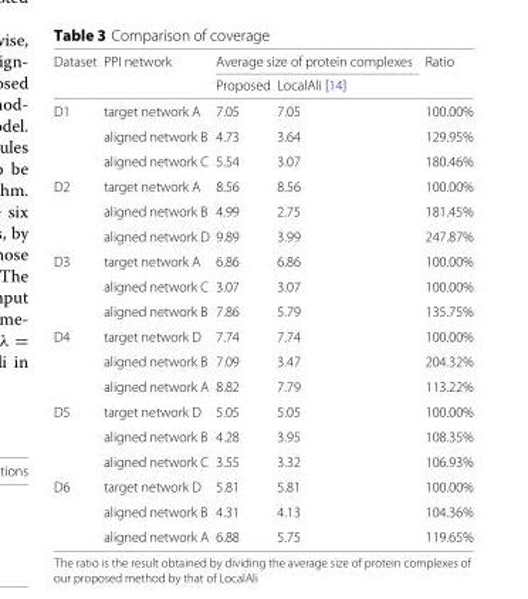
<table><thead><tr><td rowspan="2">Dataset</td><td rowspan="2">PPI network</td><td colspan="2">Average size of protein complexes</td><td rowspan="2">Ratio</td></tr><tr><td>Proposed</td><td>LocalAli [14]</td></tr></thead><tbody><tr><td rowspan="3">D1</td><td>target network A</td><td>7.05</td><td>7.05</td><td>100.00%</td></tr><tr><td>aligned network B</td><td>4.73</td><td>3.64</td><td>129.95%</td></tr><tr><td>aligned network C</td><td>5.54</td><td>3.07</td><td>180.46%</td></tr><tr><td rowspan="3">D2</td><td>target network A</td><td>8.56</td><td>8.56</td><td>100.00%</td></tr><tr><td>aligned network B</td><td>4.99</td><td>2.75</td><td>181.45%</td></tr><tr><td>aligned network D</td><td>9.89</td><td>3.99</td><td>247.87%</td></tr><tr><td rowspan="3">D3</td><td>target network A</td><td>6.86</td><td>6.86</td><td>100.00%</td></tr><tr><td>aligned network C</td><td>3.07</td><td>3.07</td><td>100.00%</td></tr><tr><td>aligned network B</td><td>7.86</td><td>5.79</td><td>135.75%</td></tr><tr><td rowspan="3">D4</td><td>target network D</td><td>7.74</td><td>7.74</td><td>100.00%</td></tr><tr><td>aligned network B</td><td>7.09</td><td>3.47</td><td>204.32%</td></tr><tr><td>aligned network A</td><td>8.82</td><td>7.79</td><td>113.22%</td></tr><tr><td rowspan="3">D5</td><td>target network D</td><td>5.05</td><td>5.05</td><td>100.00%</td></tr><tr><td>aligned network B</td><td>4.28</td><td>3.95</td><td>108.35%</td></tr><tr><td>aligned network C</td><td>3.55</td><td>3.32</td><td>106.93%</td></tr><tr><td rowspan="3">D6</td><td>target network D</td><td>5.81</td><td>5.81</td><td>100.00%</td></tr><tr><td>aligned network B</td><td>4.31</td><td>4.13</td><td>104.36%</td></tr><tr><td>aligned network A</td><td>6.88</td><td>5.75</td><td>119.65%</td></tr></tbody></table>